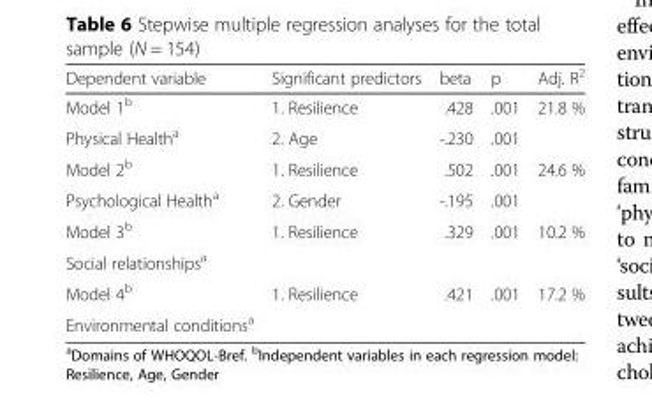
<table><thead><tr><td>Dependent variable</td><td>Significant predictors</td><td>beta</td><td>p</td><td>Adj. R<sup>2</sup></td></tr></thead><tbody><tr><td>Model 1<sup>b</sup></td><td>1. Resilience</td><td>.428</td><td>.001</td><td rowspan="2">21.8 %</td></tr><tr><td>Physical Health<sup>a</sup></td><td>2. Age</td><td>-.230</td><td>.001</td></tr><tr><td>Model 2<sup>b</sup></td><td>1. Resilience</td><td>.502</td><td>.001</td><td rowspan="2">24.6 %</td></tr><tr><td>Psychological Health<sup>a</sup></td><td>2. Gender</td><td>-.195</td><td>.001</td></tr><tr><td>Model 3<sup>b</sup></td><td rowspan="2">1. Resilience</td><td rowspan="2">.329</td><td rowspan="2">.001</td><td rowspan="2">10.2 %</td></tr><tr><td>Social relationships<sup>a</sup></td></tr><tr><td>Model 4<sup>b</sup></td><td rowspan="2">1. Resilience</td><td rowspan="2">.421</td><td rowspan="2">.001</td><td rowspan="2">17.2 %</td></tr><tr><td>Environmental conditions<sup>a</sup></td></tr></tbody></table>